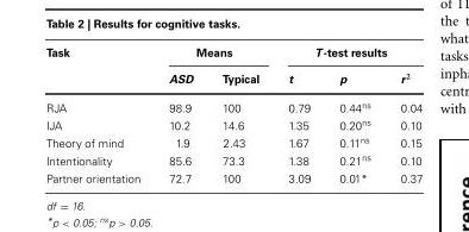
<table><thead><tr><td rowspan="2">Task</td><td colspan="2">Means</td><td colspan="3">T-test results</td></tr><tr><td>ASD</td><td>Typical</td><td>t</td><td>p</td><td>r<sup>2</sup></td></tr></thead><tbody><tr><td>RJA</td><td>98.9</td><td>100</td><td>0.79</td><td>0.44<sup>ns</sup></td><td>0.04</td></tr><tr><td>IJA</td><td>10.2</td><td>14.6</td><td>1.35</td><td>0.20<sup>ns</sup></td><td>0.10</td></tr><tr><td>Theory of mind</td><td>1.9</td><td>2.43</td><td>1.67</td><td>0.11<sup>ns</sup></td><td>0.15</td></tr><tr><td>Intentionality</td><td>85.6</td><td>73.3</td><td>1.38</td><td>0.21<sup>ns</sup></td><td>0.10</td></tr><tr><td>Partner orientation</td><td>72.7</td><td>100</td><td>3.09</td><td>0.01*</td><td>0.37</td></tr></tbody></table>